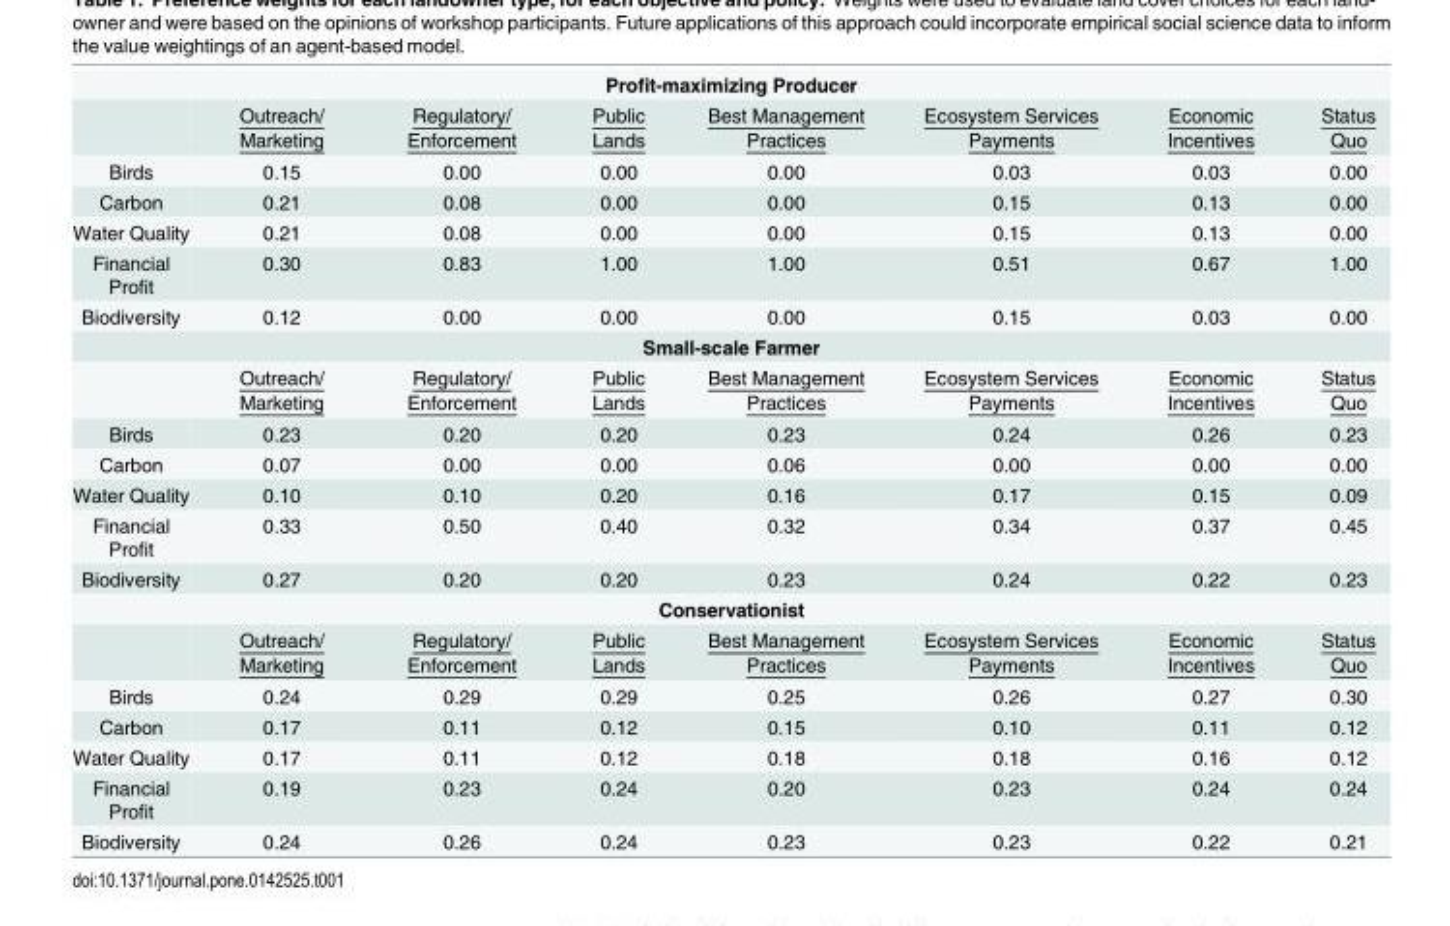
<table><tbody><tr><td colspan="8">Profit-maximizing Producer</td></tr><tr><td></td><td>Outreach/ Marketing</td><td>Regulatory/ Enforcement</td><td>Public Lands</td><td>Best Management Practices</td><td>Ecosystem Services Payments</td><td>Economic Incentives</td><td>Status Quo</td></tr><tr><td>Birds</td><td>0.15</td><td>0.00</td><td>0.00</td><td>0.00</td><td>0.03</td><td>0.03</td><td>0.00</td></tr><tr><td>Carbon</td><td>0.21</td><td>0.08</td><td>0.00</td><td>0.00</td><td>0.15</td><td>0.13</td><td>0.00</td></tr><tr><td>Water Quality</td><td>0.21</td><td>0.08</td><td>0.00</td><td>0.00</td><td>0.15</td><td>0.13</td><td>0.00</td></tr><tr><td>Financial Profit</td><td>0.30</td><td>0.83</td><td>1.00</td><td>1.00</td><td>0.51</td><td>0.67</td><td>1.00</td></tr><tr><td>Biodiversity</td><td>0.12</td><td>0.00</td><td>0.00</td><td>0.00</td><td>0.15</td><td>0.03</td><td>0.00</td></tr><tr><td colspan="8">Small-scale Farmer</td></tr><tr><td></td><td>Outreach/ Marketing</td><td>Regulatory/ Enforcement</td><td>Public Lands</td><td>Best Management Practices</td><td>Ecosystem Services Payments</td><td>Economic Incentives</td><td>Status Quo</td></tr><tr><td>Birds</td><td>0.23</td><td>0.20</td><td>0.20</td><td>0.23</td><td>0.24</td><td>0.26</td><td>0.23</td></tr><tr><td>Carbon</td><td>0.07</td><td>0.00</td><td>0.00</td><td>0.06</td><td>0.00</td><td>0.00</td><td>0.00</td></tr><tr><td>Water Quality</td><td>0.10</td><td>0.10</td><td>0.20</td><td>0.16</td><td>0.17</td><td>0.15</td><td>0.09</td></tr><tr><td>Financial Profit</td><td>0.33</td><td>0.50</td><td>0.40</td><td>0.32</td><td>0.34</td><td>0.37</td><td>0.45</td></tr><tr><td>Biodiversity</td><td>0.27</td><td>0.20</td><td>0.20</td><td>0.23</td><td>0.24</td><td>0.22</td><td>0.23</td></tr><tr><td colspan="8">Conservationist</td></tr><tr><td></td><td>Outreach/ Marketing</td><td>Regulatory/ Enforcement</td><td>Public Lands</td><td>Best Management Practices</td><td>Ecosystem Services Payments</td><td>Economic Incentives</td><td>Status Quo</td></tr><tr><td>Birds</td><td>0.24</td><td>0.29</td><td>0.29</td><td>0.25</td><td>0.26</td><td>0.27</td><td>0.30</td></tr><tr><td>Carbon</td><td>0.17</td><td>0.11</td><td>0.12</td><td>0.15</td><td>0.10</td><td>0.11</td><td>0.12</td></tr><tr><td>Water Quality</td><td>0.17</td><td>0.11</td><td>0.12</td><td>0.18</td><td>0.18</td><td>0.16</td><td>0.12</td></tr><tr><td>Financial Profit</td><td>0.19</td><td>0.23</td><td>0.24</td><td>0.20</td><td>0.23</td><td>0.24</td><td>0.24</td></tr><tr><td>Biodiversity</td><td>0.24</td><td>0.26</td><td>0.24</td><td>0.23</td><td>0.23</td><td>0.22</td><td>0.21</td></tr></tbody></table>